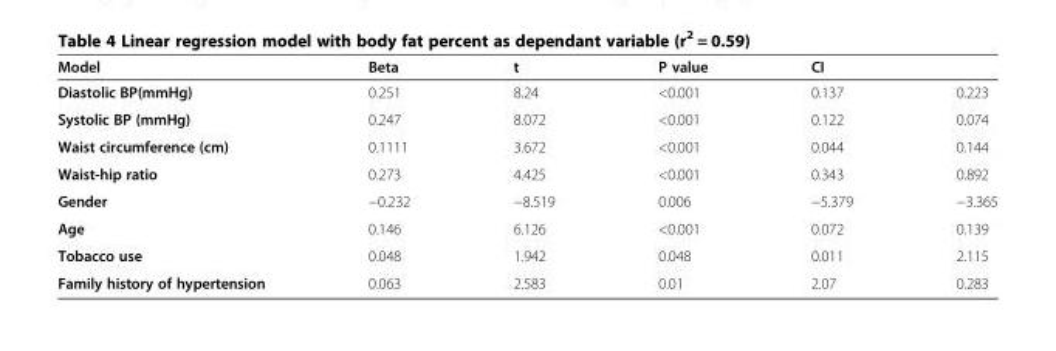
<table><thead><tr><td rowspan="2">Model Diastolic BP(mmHg)</td><td rowspan="2">Beta 0.251</td><td rowspan="2">t 8.24</td><td rowspan="2">P value &lt;0.001</td><td colspan="2">CI</td></tr><tr><td>0.137</td><td>0.223</td></tr></thead><tbody><tr><td>Systolic BP (mmHg)</td><td>0.247</td><td>8.072</td><td>&lt;0.001</td><td>0.122</td><td>0.074</td></tr><tr><td>Waist circumference (cm)</td><td>0.1111</td><td>3.672</td><td>&lt;0.001</td><td>0.044</td><td>0.144</td></tr><tr><td>Waist-hip ratio</td><td>0.273</td><td>4.425</td><td>&lt;0.001</td><td>0.343</td><td>0.892</td></tr><tr><td>Gender</td><td>−0.232</td><td>−8.519</td><td>0.006</td><td>−5.379</td><td>−3.365</td></tr><tr><td>Age</td><td>0.146</td><td>6.126</td><td>&lt;0.001</td><td>0.072</td><td>0.139</td></tr><tr><td>Tobacco use</td><td>0.048</td><td>1.942</td><td>0.048</td><td>0.011</td><td>2.115</td></tr><tr><td>Family history of hypertension</td><td>0.063</td><td>2.583</td><td>0.01</td><td>2.07</td><td>0.283</td></tr></tbody></table>